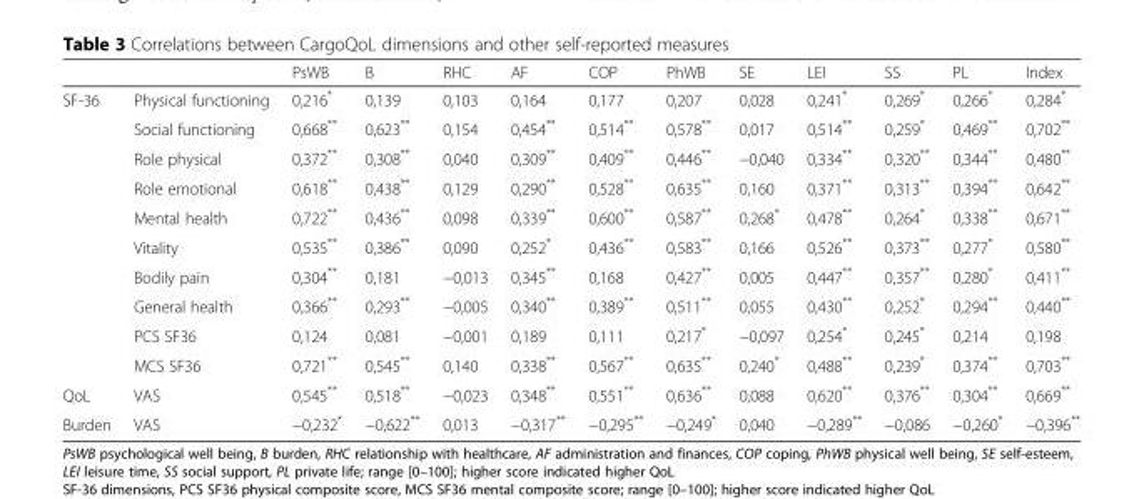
<table><thead><tr><td></td><td></td><td>PsWB</td><td>B</td><td>RHC</td><td>AF</td><td>COP</td><td>PhWB</td><td>SE</td><td>LEI</td><td>SS</td><td>PL</td><td>Index</td></tr></thead><tbody><tr><td rowspan="10">SF-36</td><td>Physical functioning</td><td>0,216*</td><td>0,139</td><td>0,103</td><td>0,164</td><td>0,177</td><td>0,207</td><td>0,028</td><td>0,241*</td><td>0,269*</td><td>0,266*</td><td>0,284*</td></tr><tr><td>Social functioning</td><td>0,668**</td><td>0,623**</td><td>0,154</td><td>0,454**</td><td>0,514**</td><td>0,578**</td><td>0,017</td><td>0,514**</td><td>0,259*</td><td>0,469**</td><td>0,702**</td></tr><tr><td>Role physical</td><td>0,372**</td><td>0,308**</td><td>0,040</td><td>0,309**</td><td>0,409**</td><td>0,446**</td><td>−0,040</td><td>0,334**</td><td>0,320**</td><td>0,344**</td><td>0,480**</td></tr><tr><td>Role emotional</td><td>0,618**</td><td>0,438**</td><td>0,129</td><td>0,290**</td><td>0,528**</td><td>0,635**</td><td>0,160</td><td>0,371**</td><td>0,313**</td><td>0,394**</td><td>0,642**</td></tr><tr><td>Mental health</td><td>0,722**</td><td>0,436**</td><td>0,098</td><td>0,339**</td><td>0,600**</td><td>0,587**</td><td>0,268*</td><td>0,478**</td><td>0,264*</td><td>0,338**</td><td>0,671**</td></tr><tr><td>Vitality</td><td>0,535**</td><td>0,386**</td><td>0,090</td><td>0,252*</td><td>0,436**</td><td>0,583**</td><td>0,166</td><td>0,526**</td><td>0,373**</td><td>0,277*</td><td>0,580**</td></tr><tr><td>Bodily pain</td><td>0,304**</td><td>0,181</td><td>−0,013</td><td>0,345**</td><td>0,168</td><td>0,427**</td><td>0,005</td><td>0,447**</td><td>0,357**</td><td>0,280*</td><td>0,411**</td></tr><tr><td>General health</td><td>0,366**</td><td>0,293**</td><td>−0,005</td><td>0,340**</td><td>0,389**</td><td>0,511**</td><td>0,055</td><td>0,430**</td><td>0,252*</td><td>0,294**</td><td>0,440**</td></tr><tr><td>PCS SF36</td><td>0,124</td><td>0,081</td><td>−0,001</td><td>0,189</td><td>0,111</td><td>0,217*</td><td>−0,097</td><td>0,254*</td><td>0,245*</td><td>0,214</td><td>0,198</td></tr><tr><td>MCS SF36</td><td>0,721**</td><td>0,545**</td><td>0,140</td><td>0,338**</td><td>0,567**</td><td>0,635**</td><td>0,240*</td><td>0,488**</td><td>0,239*</td><td>0,374**</td><td>0,703**</td></tr><tr><td>QoL</td><td>VAS</td><td>0,545**</td><td>0,518**</td><td>−0,023</td><td>0,348**</td><td>0,551**</td><td>0,636**</td><td>0,088</td><td>0,620**</td><td>0,376**</td><td>0,304**</td><td>0,669**</td></tr><tr><td>Burden</td><td>VAS</td><td>−0,232*</td><td>−0,622**</td><td>0,013</td><td>−0,317**</td><td>−0,295**</td><td>−0,249*</td><td>0,040</td><td>−0,289**</td><td>−0,086</td><td>−0,260*</td><td>−0,396**</td></tr></tbody></table>